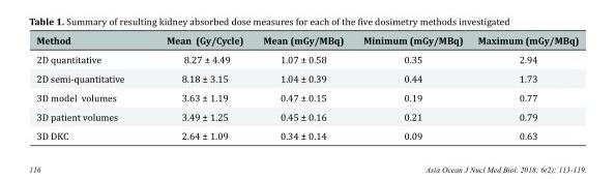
<table><thead><tr><td>Method</td><td>Mean (Gy/Cycle)</td><td>Mean (mGy/MBq)</td><td>Minimum (mGy/MBq)</td><td>Maximum (mGy/MBq)</td></tr></thead><tbody><tr><td>2D quantitative</td><td>8.27 ± 4.49</td><td>1.07 ± 0.58</td><td>0.35</td><td>2.94</td></tr><tr><td>2D semi-quantitative</td><td>8.18 ± 3.15</td><td>1.04 ± 0.39</td><td>0.44</td><td>1.73</td></tr><tr><td>3D model volumes</td><td>3.63 ± 1.19</td><td>0.47 ± 0.15</td><td>0.19</td><td>0.77</td></tr><tr><td>3D patient volumes</td><td>3.49 ± 1.25</td><td>0.45 ± 0.16</td><td>0.21</td><td>0.79</td></tr><tr><td>3D DKC</td><td>2.64 ± 1.09</td><td>0.34 ± 0.14</td><td>0.09</td><td>0.63</td></tr></tbody></table>